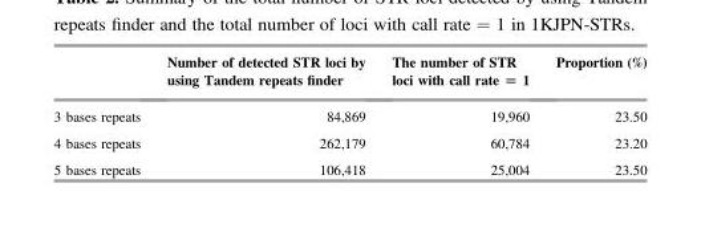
<table><thead><tr><td></td><td>Number of detected STR loci by using Tandem repeats finder</td><td>The number of STR loci with call rate = 1</td><td>Proportion (%)</td></tr></thead><tbody><tr><td>3 bases repeats</td><td>84,869</td><td>19,960</td><td>23.50</td></tr><tr><td>4 bases repeats</td><td>262,179</td><td>60,784</td><td>23.20</td></tr><tr><td>5 bases repeats</td><td>106,418</td><td>25,004</td><td>23.50</td></tr></tbody></table>